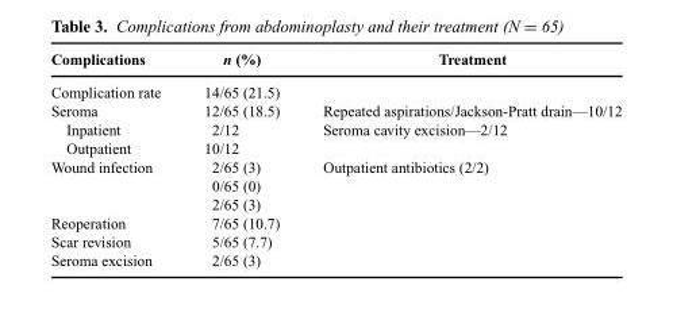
<table><thead><tr><td>Complications</td><td>n (%)</td><td>Treatment</td></tr></thead><tbody><tr><td>Complication rate</td><td>14/65 (21.5)</td><td></td></tr><tr><td>Seroma</td><td>12/65 (18.5)</td><td>Repeated aspirations/Jackson-Pratt drain—10/12</td></tr><tr><td>Inpatient</td><td>2/12</td><td>Seroma cavity excision—2/12</td></tr><tr><td>Outpatient</td><td>10/12</td><td></td></tr><tr><td rowspan="3">Wound infection</td><td>2/65 (3)</td><td>Outpatient antibiotics (2/2)</td></tr><tr><td>0/65 (0)</td><td></td></tr><tr><td>2/65 (3)</td><td></td></tr><tr><td>Reoperation</td><td>7/65 (10.7)</td><td></td></tr><tr><td>Scar revision</td><td>5/65 (7.7)</td><td></td></tr><tr><td>Seroma excision</td><td>2/65 (3)</td><td></td></tr></tbody></table>